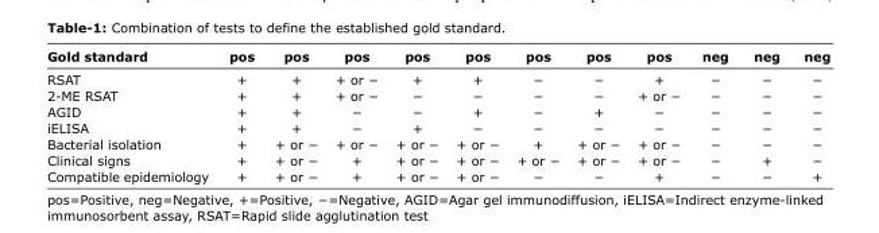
<table><thead><tr><td>Gold standard</td><td>pos</td><td>pos</td><td>pos</td><td>pos</td><td>pos</td><td>pos</td><td>pos</td><td>pos</td><td>neg</td><td>neg</td><td>neg</td></tr></thead><tbody><tr><td>RSAT</td><td>+</td><td>+</td><td>+ or −</td><td>+</td><td>+</td><td>−</td><td>−</td><td>+</td><td>−</td><td>−</td><td>−</td></tr><tr><td>2-ME RSAT</td><td>+</td><td>+</td><td>+ or −</td><td>−</td><td>−</td><td>−</td><td>−</td><td>+ or −</td><td>−</td><td>−</td><td>−</td></tr><tr><td>AGID</td><td>+</td><td>+</td><td>−</td><td>−</td><td>+</td><td>−</td><td>+</td><td>−</td><td>−</td><td>−</td><td>−</td></tr><tr><td>iELISA</td><td>+</td><td>+</td><td>−</td><td>+</td><td>−</td><td>−</td><td>−</td><td>−</td><td>−</td><td>−</td><td>−</td></tr><tr><td>Bacterial isolation</td><td>+</td><td>+ or −</td><td>+ or −</td><td>+ or −</td><td>+ or −</td><td>+</td><td>+ or −</td><td>+ or −</td><td>−</td><td>−</td><td>−</td></tr><tr><td>Clinical signs</td><td>+</td><td>+ or −</td><td>+</td><td>+ or −</td><td>+ or −</td><td>+ or −</td><td>+ or −</td><td>+ or −</td><td>−</td><td>+</td><td>−</td></tr><tr><td>Compatible epidemiology</td><td>+</td><td>+ or −</td><td>+</td><td>+ or −</td><td>+ or −</td><td>−</td><td>−</td><td>+</td><td>−</td><td>−</td><td>+</td></tr></tbody></table>